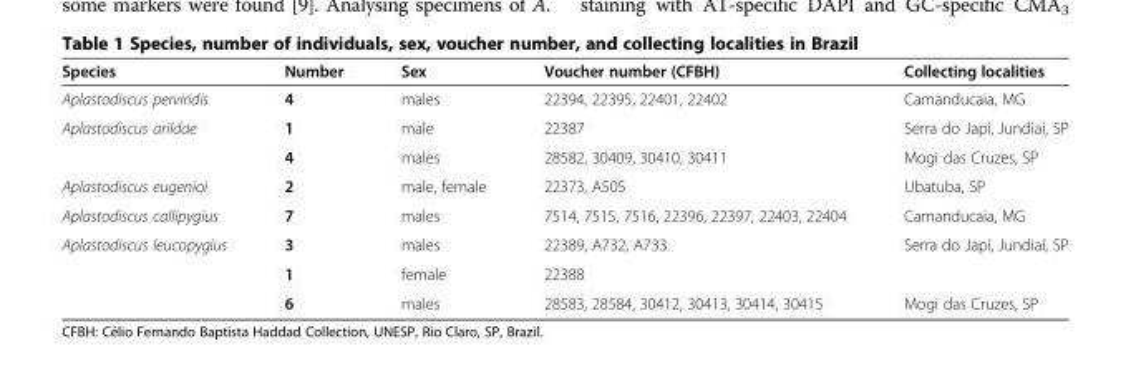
<table><thead><tr><td>Species</td><td>Number</td><td>Sex</td><td>Voucher number (CFBH)</td><td>Collecting localities</td></tr></thead><tbody><tr><td>Aplastodiscus perviridis</td><td>4</td><td>males</td><td>22394, 22395, 22401, 22402</td><td>Camanducaia, MG</td></tr><tr><td rowspan="2">Aplastodiscus arildae</td><td>1</td><td>male</td><td>22387</td><td>Serra do Japí, Jundiaí, SP</td></tr><tr><td>4</td><td>males</td><td>28582, 30409, 30410, 30411</td><td>Mogi das Cruzes, SP</td></tr><tr><td>Aplastodiscus eugenioi</td><td>2</td><td>male, female</td><td>22373, A505</td><td>Ubatuba, SP</td></tr><tr><td>Aplastodiscus callipygius</td><td>7</td><td>males</td><td>7514, 7515, 7516, 22396, 22397, 22403, 22404</td><td>Camanducaia, MG</td></tr><tr><td rowspan="3">Aplastodiscus leucopygius</td><td>3</td><td>males</td><td>22389, A732, A733</td><td rowspan="2">Serra do Japí, Jundiaí, SP</td></tr><tr><td>1</td><td>female</td><td>22388</td></tr><tr><td>6</td><td>males</td><td>28583, 28584, 30412, 30413, 30414, 30415</td><td>Mogi das Cruzes, SP</td></tr></tbody></table>